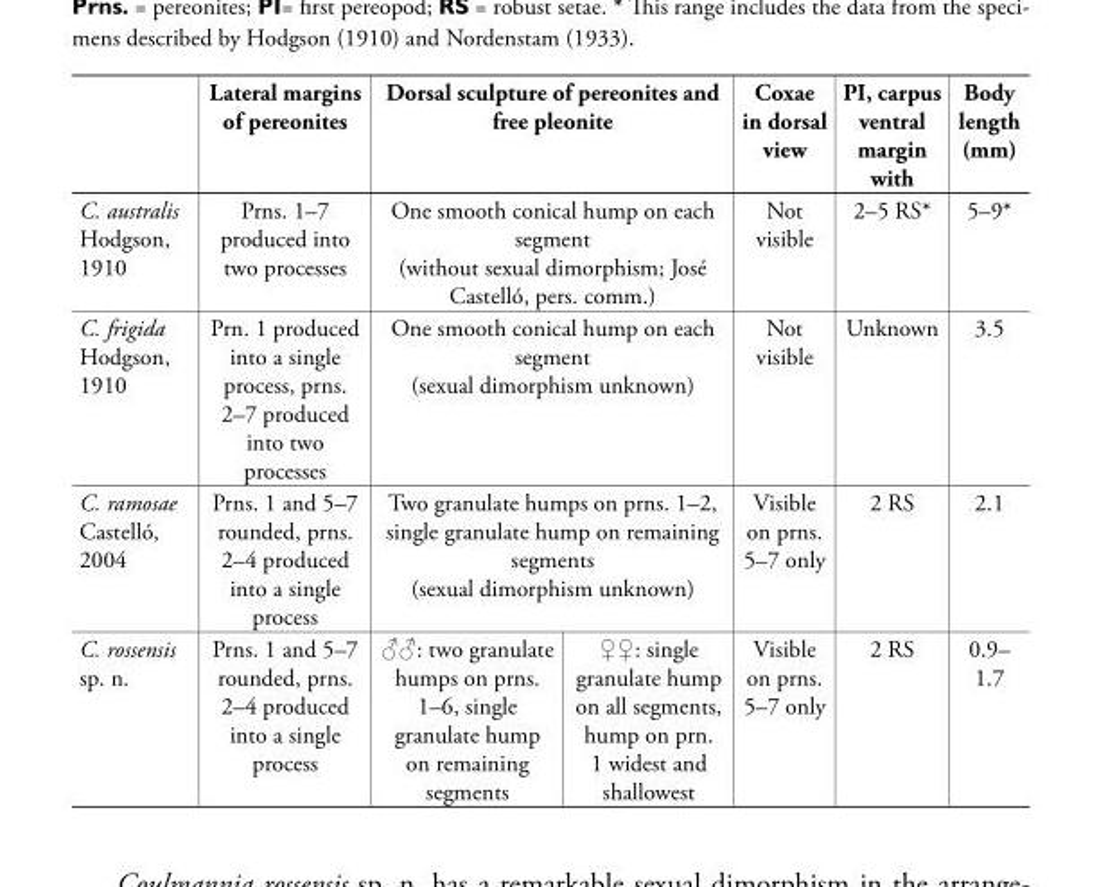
<table><thead><tr><td></td><td>Lateral margins of pereonites</td><td colspan="2">Dorsal sculpture of pereonites and free pleonite</td><td>Coxae in dorsal view</td><td>PI, carpus ventral margin with</td><td>Body length (mm)</td></tr></thead><tbody><tr><td>C. australis Hodgson, 1910</td><td>Prns. 1–7 produced into two processes</td><td colspan="2">One smooth conical hump on each segment (without sexual dimorphism; José Castelló, pers. comm.)</td><td>Not visible</td><td>2–5 RS*</td><td>5–9*</td></tr><tr><td>C. frigida Hodgson, 1910</td><td>Prn. 1 produced into a single process, prns. 2–7 produced into two processes</td><td colspan="2">One smooth conical hump on each segment (sexual dimorphism unknown)</td><td>Not visible</td><td>Unknown</td><td>3.5</td></tr><tr><td>C. ramosae Castelló, 2004</td><td>Prns. 1 and 5–7 rounded, prns. 2–4 produced into a single process</td><td colspan="2">Two granulate humps on prns. 1–2, single granulate hump on remaining segments (sexual dimorphism unknown)</td><td>Visible on prns. 5–7 only</td><td>2 RS</td><td>2.1</td></tr><tr><td>C. rossensis sp. n.</td><td>Prns. 1 and 5–7 rounded, prns. 2–4 produced into a single process</td><td>♂♂: two granulate humps on prns. 1–6, single granulate hump on remaining segments</td><td>♀♀: single granulate hump on all segments, hump on prn. 1 widest and shallowest</td><td>Visible on prns. 5–7 only</td><td>2 RS</td><td>0.9– 1.7</td></tr></tbody></table>